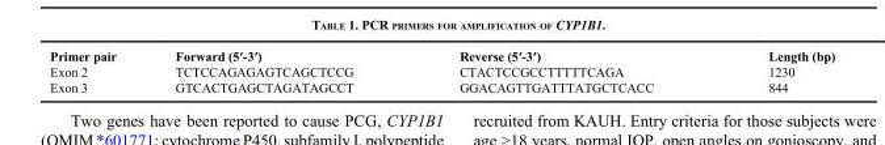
<table><thead><tr><td>Primer pair</td><td>Forward (5′-3′)</td><td>Reverse (5′-3′)</td><td>Length (bp)</td></tr></thead><tbody><tr><td>Exon 2</td><td>TCTCCAGAGAGTCAGCTCCG</td><td>CTACTCCGCCTTTTTCAGA</td><td>1230</td></tr><tr><td>Exon 3</td><td>GTCACTGAGCTAGATAGCCT</td><td>GGACAGTTGATTTATGCTCACC</td><td>844</td></tr></tbody></table>